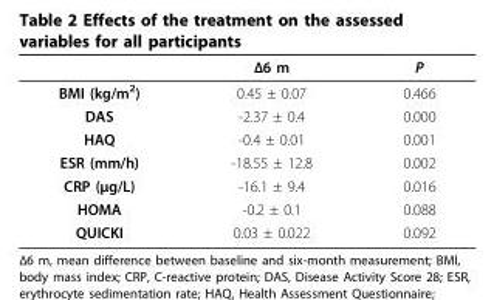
<table><thead><tr><td></td><td>Δ6 m</td><td>P</td></tr></thead><tbody><tr><td>BMI (kg/m<sup>2</sup>)</td><td>0.45 ± 0.07</td><td>0.466</td></tr><tr><td>DAS</td><td>-2.37 ± 0.4</td><td>0.000</td></tr><tr><td>HAQ</td><td>-0.4 ± 0.01</td><td>0.001</td></tr><tr><td>ESR (mm/h)</td><td>-18.55 ± 12.8</td><td>0.002</td></tr><tr><td>CRP (μg/L)</td><td>-16.1 ± 9.4</td><td>0.016</td></tr><tr><td>HOMA</td><td>-0.2 ± 0.1</td><td>0.088</td></tr><tr><td>QUICKI</td><td>0.03 ± 0.022</td><td>0.092</td></tr></tbody></table>